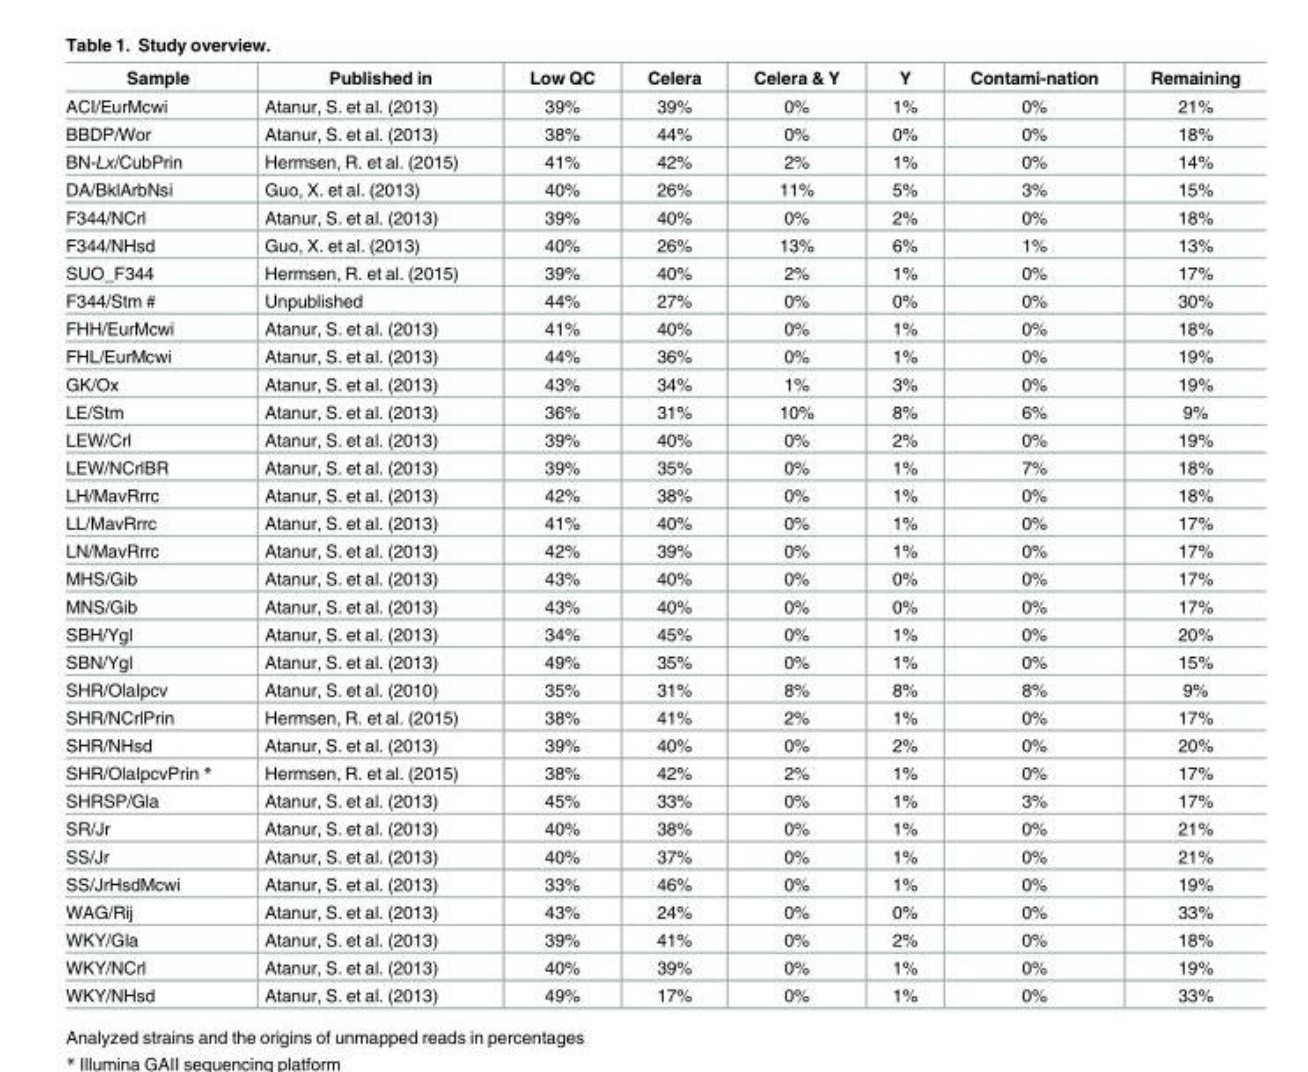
<table><thead><tr><td>Sample</td><td>Published in</td><td>Low QC</td><td>Celera</td><td>Celera &amp; Y</td><td>Y</td><td>Contami-nation</td><td>Remaining</td></tr></thead><tbody><tr><td>ACI/EurMcwi</td><td>Atanur, S. et al. (2013)</td><td>39%</td><td>39%</td><td>0%</td><td>1%</td><td>0%</td><td>21%</td></tr><tr><td>BBDP/Wor</td><td>Atanur, S. et al. (2013)</td><td>38%</td><td>44%</td><td>0%</td><td>0%</td><td>0%</td><td>18%</td></tr><tr><td>BN-Lx/CubPrin</td><td>Hermsen, R. et al. (2015)</td><td>41%</td><td>42%</td><td>2%</td><td>1%</td><td>0%</td><td>14%</td></tr><tr><td>DA/BklArbNsi</td><td>Guo, X. et al. (2013)</td><td>40%</td><td>26%</td><td>11%</td><td>5%</td><td>3%</td><td>15%</td></tr><tr><td>F344/NCrl</td><td>Atanur, S. et al. (2013)</td><td>39%</td><td>40%</td><td>0%</td><td>2%</td><td>0%</td><td>18%</td></tr><tr><td>F344/NHsd</td><td>Guo, X. et al. (2013)</td><td>40%</td><td>26%</td><td>13%</td><td>6%</td><td>1%</td><td>13%</td></tr><tr><td>SUO_F344</td><td>Hermsen, R. et al. (2015)</td><td>39%</td><td>40%</td><td>2%</td><td>1%</td><td>0%</td><td>17%</td></tr><tr><td>F344/Stm #</td><td>Unpublished</td><td>44%</td><td>27%</td><td>0%</td><td>0%</td><td>0%</td><td>30%</td></tr><tr><td>FHH/EurMcwi</td><td>Atanur, S. et al. (2013)</td><td>41%</td><td>40%</td><td>0%</td><td>1%</td><td>0%</td><td>18%</td></tr><tr><td>FHL/EurMcwi</td><td>Atanur, S. et al. (2013)</td><td>44%</td><td>36%</td><td>0%</td><td>1%</td><td>0%</td><td>19%</td></tr><tr><td>GK/Ox</td><td>Atanur, S. et al. (2013)</td><td>43%</td><td>34%</td><td>1%</td><td>3%</td><td>0%</td><td>19%</td></tr><tr><td>LE/Stm</td><td>Atanur, S. et al. (2013)</td><td>36%</td><td>31%</td><td>10%</td><td>8%</td><td>6%</td><td>9%</td></tr><tr><td>LEW/Crl</td><td>Atanur, S. et al. (2013)</td><td>39%</td><td>40%</td><td>0%</td><td>2%</td><td>0%</td><td>19%</td></tr><tr><td>LEW/NCrlBR</td><td>Atanur, S. et al. (2013)</td><td>39%</td><td>35%</td><td>0%</td><td>1%</td><td>7%</td><td>18%</td></tr><tr><td>LH/MavRrrc</td><td>Atanur, S. et al. (2013)</td><td>42%</td><td>38%</td><td>0%</td><td>1%</td><td>0%</td><td>18%</td></tr><tr><td>LL/MavRrrc</td><td>Atanur, S. et al. (2013)</td><td>41%</td><td>40%</td><td>0%</td><td>1%</td><td>0%</td><td>17%</td></tr><tr><td>LN/MavRrrc</td><td>Atanur, S. et al. (2013)</td><td>42%</td><td>39%</td><td>0%</td><td>1%</td><td>0%</td><td>17%</td></tr><tr><td>MHS/Gib</td><td>Atanur, S. et al. (2013)</td><td>43%</td><td>40%</td><td>0%</td><td>0%</td><td>0%</td><td>17%</td></tr><tr><td>MNS/Gib</td><td>Atanur, S. et al. (2013)</td><td>43%</td><td>40%</td><td>0%</td><td>0%</td><td>0%</td><td>17%</td></tr><tr><td>SBH/Ygl</td><td>Atanur, S. et al. (2013)</td><td>34%</td><td>45%</td><td>0%</td><td>1%</td><td>0%</td><td>20%</td></tr><tr><td>SBN/Ygl</td><td>Atanur, S. et al. (2013)</td><td>49%</td><td>35%</td><td>0%</td><td>1%</td><td>0%</td><td>15%</td></tr><tr><td>SHR/OlaIpcv</td><td>Atanur, S. et al. (2010)</td><td>35%</td><td>31%</td><td>8%</td><td>8%</td><td>8%</td><td>9%</td></tr><tr><td>SHR/NCrlPrin</td><td>Hermsen, R. et al. (2015)</td><td>38%</td><td>41%</td><td>2%</td><td>1%</td><td>0%</td><td>17%</td></tr><tr><td>SHR/NHsd</td><td>Atanur, S. et al. (2013)</td><td>39%</td><td>40%</td><td>0%</td><td>2%</td><td>0%</td><td>20%</td></tr><tr><td>SHR/OlaIpcvPrin *</td><td>Hermsen, R. et al. (2015)</td><td>38%</td><td>42%</td><td>2%</td><td>1%</td><td>0%</td><td>17%</td></tr><tr><td>SHRSP/Gla</td><td>Atanur, S. et al. (2013)</td><td>45%</td><td>33%</td><td>0%</td><td>1%</td><td>3%</td><td>17%</td></tr><tr><td>SR/Jr</td><td>Atanur, S. et al. (2013)</td><td>40%</td><td>38%</td><td>0%</td><td>1%</td><td>0%</td><td>21%</td></tr><tr><td>SS/Jr</td><td>Atanur, S. et al. (2013)</td><td>40%</td><td>37%</td><td>0%</td><td>1%</td><td>0%</td><td>21%</td></tr><tr><td>SS/JrHsdMcwi</td><td>Atanur, S. et al. (2013)</td><td>33%</td><td>46%</td><td>0%</td><td>1%</td><td>0%</td><td>19%</td></tr><tr><td>WAG/Rij</td><td>Atanur, S. et al. (2013)</td><td>43%</td><td>24%</td><td>0%</td><td>0%</td><td>0%</td><td>33%</td></tr><tr><td>WKY/Gla</td><td>Atanur, S. et al. (2013)</td><td>39%</td><td>41%</td><td>0%</td><td>2%</td><td>0%</td><td>18%</td></tr><tr><td>WKY/NCrl</td><td>Atanur, S. et al. (2013)</td><td>40%</td><td>39%</td><td>0%</td><td>1%</td><td>0%</td><td>19%</td></tr><tr><td>WKY/NHsd</td><td>Atanur, S. et al. (2013)</td><td>49%</td><td>17%</td><td>0%</td><td>1%</td><td>0%</td><td>33%</td></tr></tbody></table>